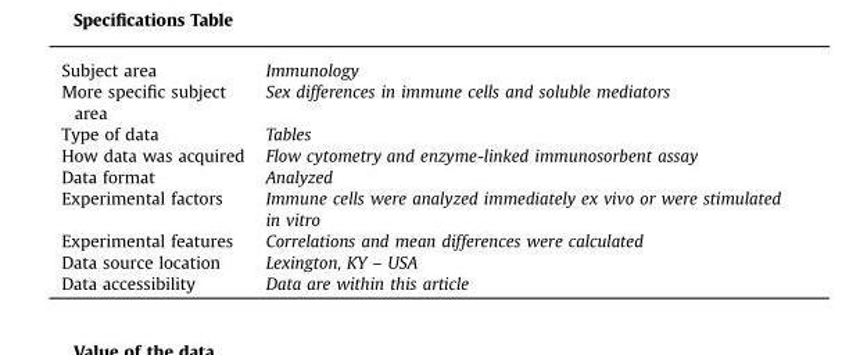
<table><tbody><tr><td>Subject area</td><td>Immunology</td></tr><tr><td>More specific subject area</td><td>Sex differences in immune cells and soluble mediators</td></tr><tr><td>Type of data</td><td>Tables</td></tr><tr><td>How data was acquired</td><td>Flow cytometry and enzyme-linked immunosorbent assay</td></tr><tr><td>Data format</td><td>Analyzed</td></tr><tr><td>Experimental factors</td><td>Immune cells were analyzed immediately ex vivo or were stimulated in vitro</td></tr><tr><td>Experimental features</td><td>Correlations and mean differences were calculated</td></tr><tr><td>Data source location</td><td>Lexington, KY – USA</td></tr><tr><td>Data accessibility</td><td>Data are within this article</td></tr></tbody></table>